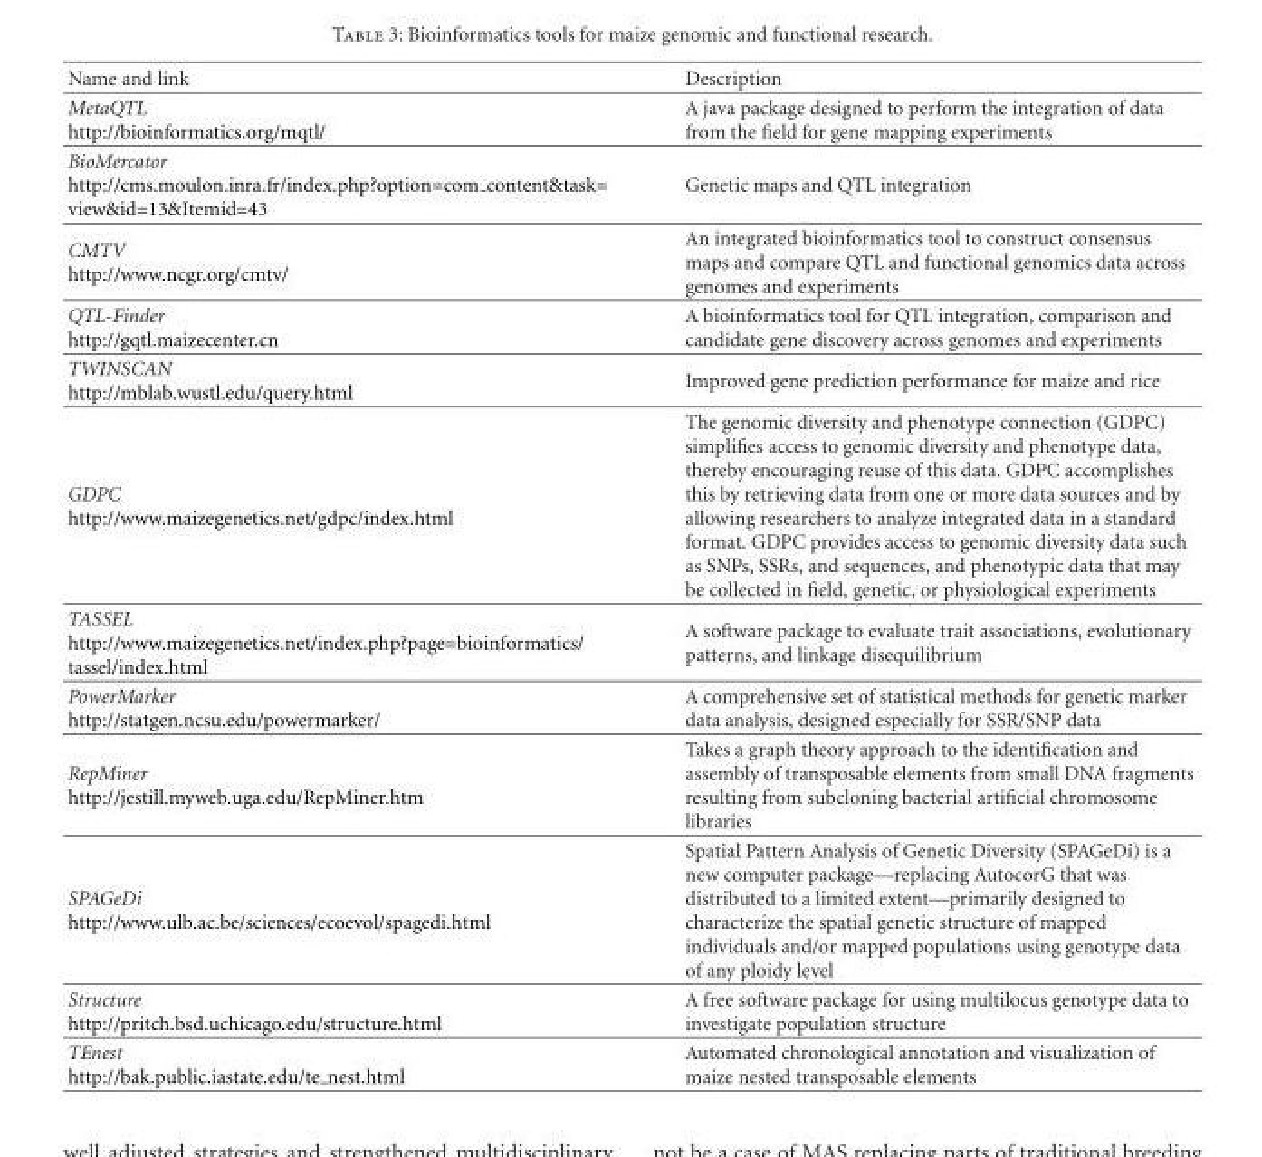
<table><thead><tr><td>Name and link</td><td>Description</td></tr></thead><tbody><tr><td>MetaQTL http://bioinformatics.org/mqtl/</td><td>A java package designed to perform the integration of data from the field for gene mapping experiments</td></tr><tr><td>BioMercator http://cms.moulon.inra.fr/index.php?option=com content&amp;task= view&amp;id=13&amp;Itemid=43</td><td>Genetic maps and QTL integration</td></tr><tr><td>CMTV http://www.ncgr.org/cmtv/</td><td>An integrated bioinformatics tool to construct consensus maps and compare QTL and functional genomics data across genomes and experiments</td></tr><tr><td>QTL-Finder http://gqtl.maizecenter.cn</td><td>A bioinformatics tool for QTL integration, comparison and candidate gene discovery across genomes and experiments</td></tr><tr><td>TWINSCAN http://mblab.wustl.edu/query.html</td><td>Improved gene prediction performance for maize and rice</td></tr><tr><td>GDPC http://www.maizegenetics.net/gdpc/index.html</td><td>The genomic diversity and phenotype connection (GDPC) simplifies access to genomic diversity and phenotype data, thereby encouraging reuse of this data. GDPC accomplishes this by retrieving data from one or more data sources and by allowing researchers to analyze integrated data in a standard format. GDPC provides access to genomic diversity data such as SNPs, SSRs, and sequences, and phenotypic data that may be collected in field, genetic, or physiological experiments</td></tr><tr><td>TASSEL http://www.maizegenetics.net/index.php?page=bioinformatics/ tassel/index.html</td><td>A software package to evaluate trait associations, evolutionary patterns, and linkage disequilibrium</td></tr><tr><td>PowerMarker http://statgen.ncsu.edu/powermarker/</td><td>A comprehensive set of statistical methods for genetic marker data analysis, designed especially for SSR/SNP data</td></tr><tr><td>RepMiner http://jestill.myweb.uga.edu/RepMiner.htm</td><td>Takes a graph theory approach to the identification and assembly of transposable elements from small DNA fragments resulting from subcloning bacterial artificial chromosome libraries</td></tr><tr><td>SPAGeDi http://www.ulb.ac.be/sciences/ecoevol/spagedi.html</td><td>Spatial Pattern Analysis of Genetic Diversity (SPAGeDi) is a new computer package—replacing AutocorG that was distributed to a limited extent—primarily designed to characterize the spatial genetic structure of mapped individuals and/or mapped populations using genotype data of any ploidy level</td></tr><tr><td>Structure http://pritch.bsd.uchicago.edu/structure.html</td><td>A free software package for using multilocus genotype data to investigate population structure</td></tr><tr><td>TEnest http://bak.public.iastate.edu/te nest.html</td><td>Automated chronological annotation and visualization of maize nested transposable elements</td></tr></tbody></table>